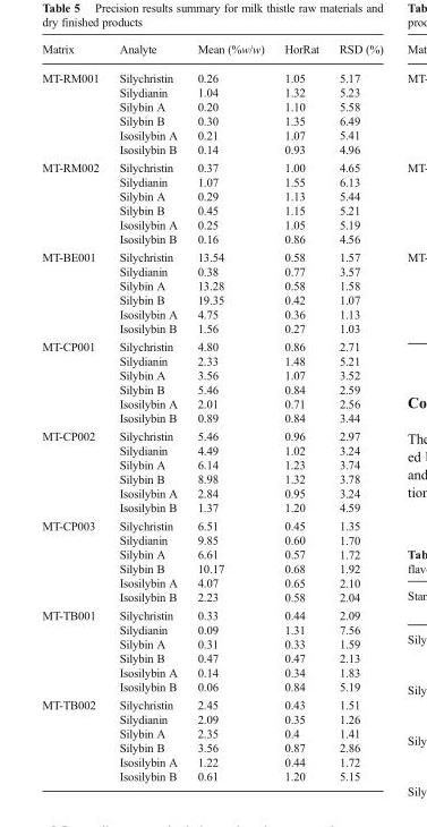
<table><thead><tr><td>Matrix</td><td>Analyte</td><td>Mean (%w/w)</td><td>HorRat</td><td>RSD (%)</td></tr></thead><tbody><tr><td>MT-RM001</td><td>Silychristin Silydianin Silybin A Silybin B Isosilybin A Isosilybin B</td><td>0.26 1.04 0.20 0.30 0.21 0.14</td><td>1.05 1.32 1.10 1.35 1.07 0.93</td><td>5.17 5.23 5.58 6.49 5.41 4.96</td></tr><tr><td>MT-RM002</td><td>Silychristin Silydianin Silybin A Silybin B Isosilybin A Isosilybin B</td><td>0.37 1.07 0.29 0.45 0.25 0.16</td><td>1.00 1.55 1.13 1.15 1.05 0.86</td><td>4.65 6.13 5.44 5.21 5.19 4.56</td></tr><tr><td>MT-BE001</td><td>Silychristin Silydianin Silybin A Silybin B Isosilybin A Isosilybin B</td><td>13.54 0.38 13.28 19.35 4.75 1.56</td><td>0.58 0.77 0.58 0.42 0.36 0.27</td><td>1.57 3.57 1.58 1.07 1.13 1.03</td></tr><tr><td>MT-CP001</td><td>Silychristin Silydianin Silybin A Silybin B Isosilybin A Isosilybin B</td><td>4.80 2.33 3.56 5.46 2.01 0.89</td><td>0.86 1.48 1.07 0.84 0.71 0.84</td><td>2.71 5.21 3.52 2.59 2.56 3.44</td></tr><tr><td>MT-CP002</td><td>Silychristin Silydianin Silybin A Silybin B Isosilybin A Isosilybin B</td><td>5.46 4.49 6.14 8.98 2.84 1.37</td><td>0.96 1.02 1.23 1.32 0.95 1.20</td><td>2.97 3.24 3.74 3.78 3.24 4.59</td></tr><tr><td>MT-CP003</td><td>Silychristin Silydianin Silybin A Silybin B Isosilybin A Isosilybin B</td><td>6.51 9.85 6.61 10.17 4.07 2.23</td><td>0.45 0.60 0.57 0.68 0.65 0.58</td><td>1.35 1.70 1.72 1.92 2.10 2.04</td></tr><tr><td>MT-TB001</td><td>Silychristin Silydianin Silybin A Silybin B Isosilybin A Isosilybin B</td><td>0.33 0.09 0.31 0.47 0.14 0.06</td><td>0.44 1.31 0.33 0.47 0.34 0.84</td><td>2.09 7.56 1.59 2.13 1.83 5.19</td></tr><tr><td>MT-TB002</td><td>Silychristin Silydianin Silybin A Silybin B Isosilybin A Isosilybin B</td><td>2.45 2.09 2.35 3.56 1.22 0.61</td><td>0.43 0.35 0.4 0.87 0.44 1.20</td><td>1.51 1.26 1.41 2.86 1.72 5.15</td></tr></tbody></table>